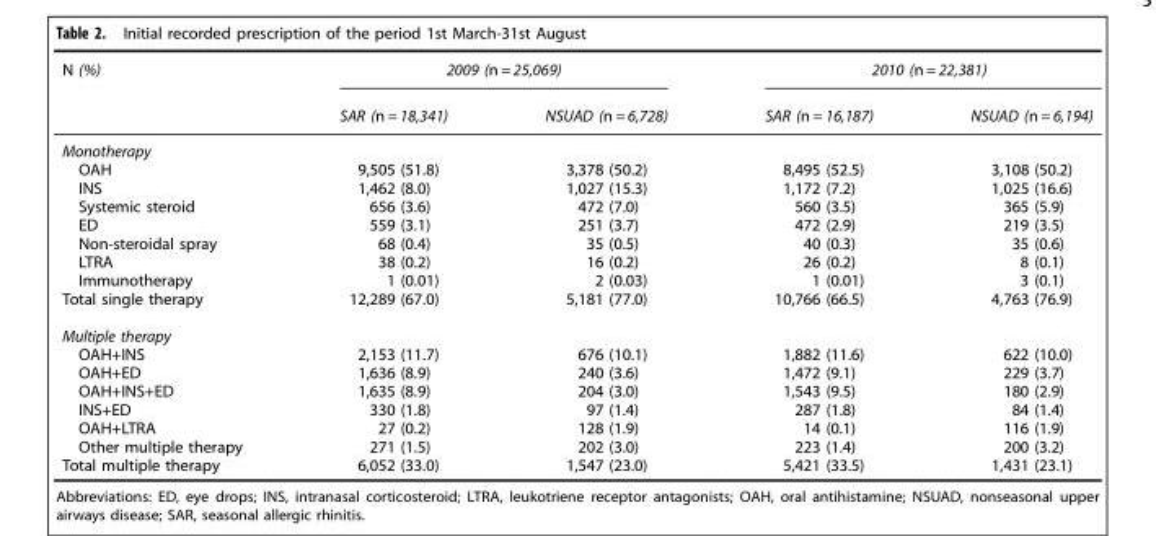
<table><thead><tr><td rowspan="2">N (%)</td><td colspan="2">2009 (n = 25,069)</td><td colspan="2">2010 (n = 22,381)</td></tr><tr><td>SAR (n = 18,341)</td><td>NSUAD (n = 6,728)</td><td>SAR (n = 16,187)</td><td>NSUAD (n = 6,194)</td></tr></thead><tbody><tr><td colspan="5">Monotherapy</td></tr><tr><td>OAH</td><td>9,505 (51.8)</td><td>3,378 (50.2)</td><td>8,495 (52.5)</td><td>3,108 (50.2)</td></tr><tr><td>INS</td><td>1,462 (8.0)</td><td>1,027 (15.3)</td><td>1,172 (7.2)</td><td>1,025 (16.6)</td></tr><tr><td>Systemic steroid</td><td>656 (3.6)</td><td>472 (7.0)</td><td>560 (3.5)</td><td>365 (5.9)</td></tr><tr><td>ED</td><td>559 (3.1)</td><td>251 (3.7)</td><td>472 (2.9)</td><td>219 (3.5)</td></tr><tr><td>Non-steroidal spray</td><td>68 (0.4)</td><td>35 (0.5)</td><td>40 (0.3)</td><td>35 (0.6)</td></tr><tr><td>LTRA</td><td>38 (0.2)</td><td>16 (0.2)</td><td>26 (0.2)</td><td>8 (0.1)</td></tr><tr><td>Immunotherapy</td><td>1 (0.01)</td><td>2 (0.03)</td><td>1 (0.01)</td><td>3 (0.1)</td></tr><tr><td>Total single therapy</td><td>12,289 (67.0)</td><td>5,181 (77.0)</td><td>10,766 (66.5)</td><td>4,763 (76.9)</td></tr><tr><td colspan="5">Multiple therapy</td></tr><tr><td>OAH+INS</td><td>2,153 (11.7)</td><td>676 (10.1)</td><td>1,882 (11.6)</td><td>622 (10.0)</td></tr><tr><td>OAH+ED</td><td>1,636 (8.9)</td><td>240 (3.6)</td><td>1,472 (9.1)</td><td>229 (3.7)</td></tr><tr><td>OAH+INS+ED</td><td>1,635 (8.9)</td><td>204 (3.0)</td><td>1,543 (9.5)</td><td>180 (2.9)</td></tr><tr><td>INS+ED</td><td>330 (1.8)</td><td>97 (1.4)</td><td>287 (1.8)</td><td>84 (1.4)</td></tr><tr><td>OAH+LTRA</td><td>27 (0.2)</td><td>128 (1.9)</td><td>14 (0.1)</td><td>116 (1.9)</td></tr><tr><td>Other multiple therapy</td><td>271 (1.5)</td><td>202 (3.0)</td><td>223 (1.4)</td><td>200 (3.2)</td></tr><tr><td>Total multiple therapy</td><td>6,052 (33.0)</td><td>1,547 (23.0)</td><td>5,421 (33.5)</td><td>1,431 (23.1)</td></tr></tbody></table>